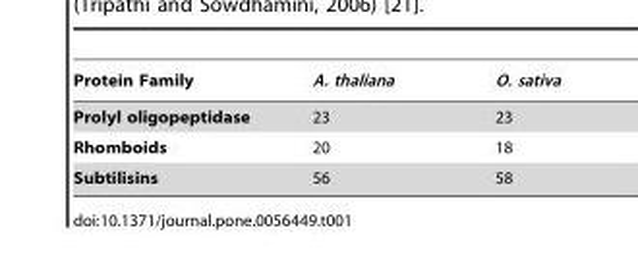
<table><thead><tr><td>Protein Family</td><td>A. thaliana</td><td>O. sativa</td></tr></thead><tbody><tr><td>Prolyl oligopeptidase</td><td>23</td><td>23</td></tr><tr><td>Rhomboids</td><td>20</td><td>18</td></tr><tr><td>Subtilisins</td><td>56</td><td>58</td></tr></tbody></table>